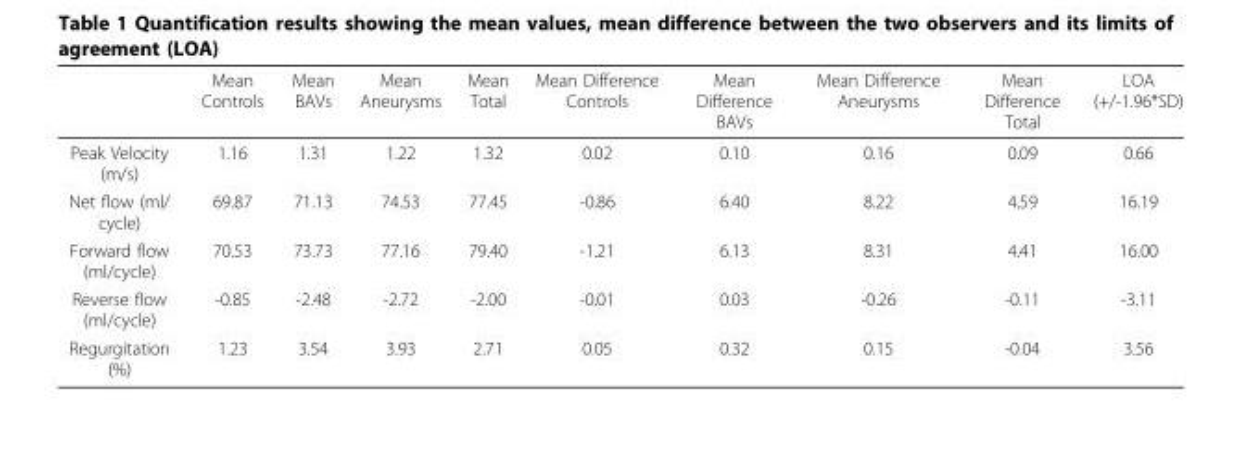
<table><thead><tr><td></td><td>Mean Controls</td><td>Mean BAVs</td><td>Mean Aneurysms</td><td>Mean Total</td><td>Mean Difference Controls</td><td>Mean Difference BAVs</td><td>Mean Difference Aneurysms</td><td>Mean Difference Total</td><td>LOA (+/-1.96*SD)</td></tr></thead><tbody><tr><td>Peak Velocity (m/s)</td><td>1.16</td><td>1.31</td><td>1.22</td><td>1.32</td><td>0.02</td><td>0.10</td><td>0.16</td><td>0.09</td><td>0.66</td></tr><tr><td>Net flow (ml/ cycle)</td><td>69.87</td><td>71.13</td><td>74.53</td><td>77.45</td><td>-0.86</td><td>6.40</td><td>8.22</td><td>4.59</td><td>16.19</td></tr><tr><td>Forward flow (ml/cycle)</td><td>70.53</td><td>73.73</td><td>77.16</td><td>79.40</td><td>-1.21</td><td>6.13</td><td>8.31</td><td>4.41</td><td>16.00</td></tr><tr><td>Reverse flow (ml/cycle)</td><td>-0.85</td><td>-2.48</td><td>-2.72</td><td>-2.00</td><td>-0.01</td><td>0.03</td><td>-0.26</td><td>-0.11</td><td>-3.11</td></tr><tr><td>Regurgitation (%)</td><td>1.23</td><td>3.54</td><td>3.93</td><td>2.71</td><td>0.05</td><td>0.32</td><td>0.15</td><td>-0.04</td><td>3.56</td></tr></tbody></table>